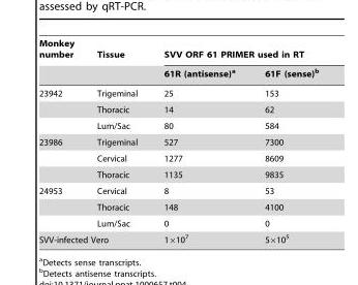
<table><thead><tr><td rowspan="2">Monkey number</td><td rowspan="2">Tissue</td><td colspan="2">SVV ORF 61 PRIMER used in RT</td></tr><tr><td>61R (antisense)<sup>a</sup></td><td>61F (sense)<sup>b</sup></td></tr></thead><tbody><tr><td rowspan="3">23942</td><td>Trigeminal</td><td>25</td><td>153</td></tr><tr><td>Thoracic</td><td>14</td><td>62</td></tr><tr><td>Lum/Sac</td><td>80</td><td>584</td></tr><tr><td rowspan="3">23986</td><td>Trigeminal</td><td>527</td><td>7300</td></tr><tr><td>Cervical</td><td>1277</td><td>8609</td></tr><tr><td>Thoracic</td><td>1135</td><td>9835</td></tr><tr><td rowspan="3">24953</td><td>Cervical</td><td>8</td><td>53</td></tr><tr><td>Thoracic</td><td>148</td><td>4100</td></tr><tr><td>Lum/Sac</td><td>0</td><td>0</td></tr><tr><td colspan="2">SVV-infected Vero</td><td>1×10<sup>7</sup></td><td>5×10<sup>5</sup></td></tr></tbody></table>